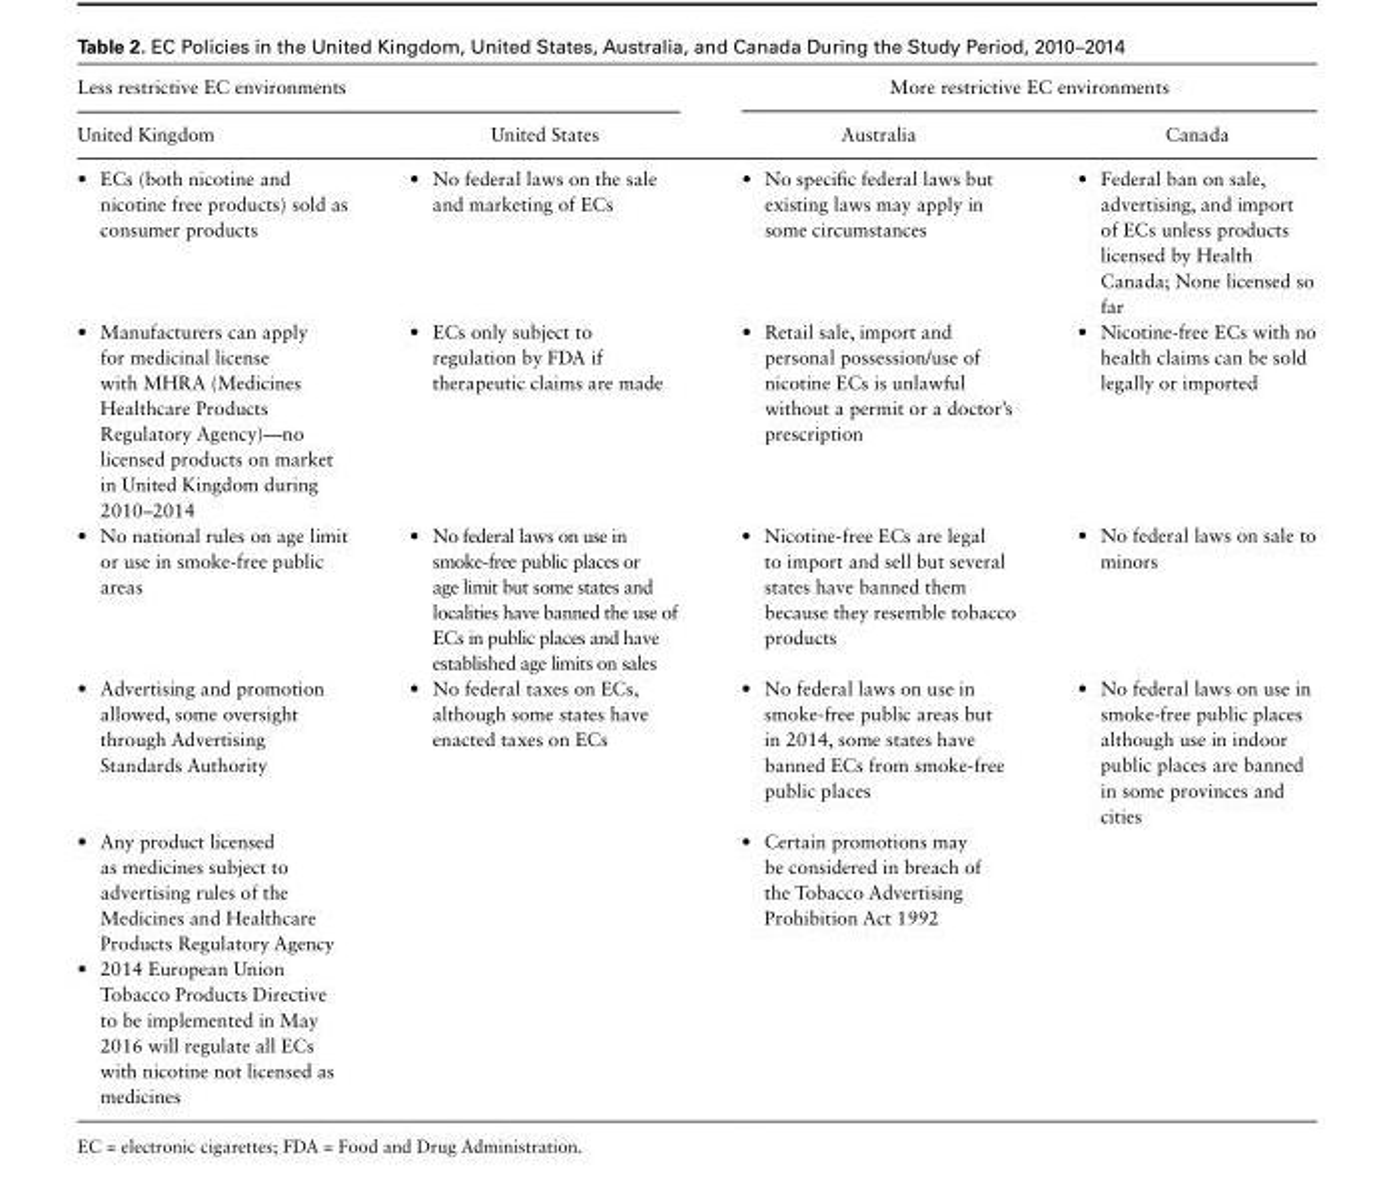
<table><thead><tr><td colspan="2">Less restrictive EC environments</td><td colspan="2">More restrictive EC environments</td></tr><tr><td>United Kingdom</td><td>United States</td><td>Australia</td><td>Canada</td></tr></thead><tbody><tr><td>• ECs (both nicotine and nicotine free products) sold as consumer products</td><td>• No federal laws on the sale and marketing of ECs</td><td>• No specific federal laws but existing laws may apply in some circumstances</td><td>• Federal ban on sale, advertising, and import of ECs unless products licensed by Health Canada; None licensed so far</td></tr><tr><td>• Manufacturers can apply for medicinal license with MHRA (Medicines Healthcare Products Regulatory Agency)—no licensed products on market in United Kingdom during 2010–2014</td><td>• ECs only subject to regulation by FDA if therapeutic claims are made</td><td>• Retail sale, import and personal possession/use of nicotine ECs is unlawful without a permit or a doctor’s prescription</td><td>• Nicotine-free ECs with no health claims can be sold legally or imported</td></tr><tr><td>• No national rules on age limit or use in smoke-free public areas</td><td>• No federal laws on use in smoke-free public places or age limit but some states and localities have banned the use of ECs in public places and have established age limits on sales</td><td>• Nicotine-free ECs are legal to import and sell but several states have banned them because they resemble tobacco products</td><td>• No federal laws on sale to minors</td></tr><tr><td>• Advertising and promotion allowed, some oversight through Advertising Standards Authority</td><td>• No federal taxes on ECs, although some states have enacted taxes on ECs</td><td>• No federal laws on use in smoke-free public areas but in 2014, some states have banned ECs from smoke-free public places</td><td>• No federal laws on use in smoke-free public places although use in indoor public places are banned in some provinces and cities</td></tr><tr><td>• Any product licensed as medicines subject to advertising rules of the Medicines and Healthcare Products Regulatory Agency</td><td></td><td>• Certain promotions may be considered in breach of the Tobacco Advertising Prohibition Act 1992</td><td></td></tr><tr><td>• 2014 European Union Tobacco Products Directive to be implemented in May 2016 will regulate all ECs with nicotine not licensed as medicines</td><td></td><td></td><td></td></tr></tbody></table>